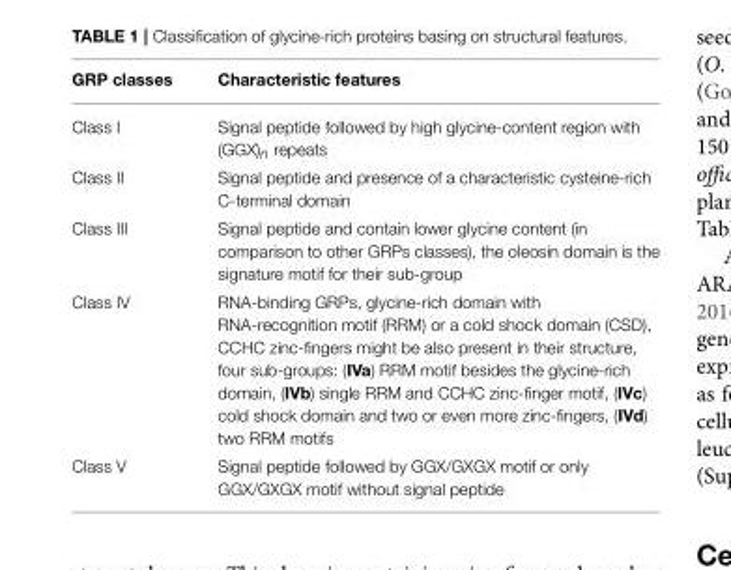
<table><thead><tr><td>GRP classes</td><td>Characteristic features</td></tr></thead><tbody><tr><td>Class I</td><td>Signal peptide followed by high glycine-content region with (GGX)n repeats</td></tr><tr><td>Class II</td><td>Signal peptide and presence of a characteristic cysteine-rich C-terminal domain</td></tr><tr><td>Class III</td><td>Signal peptide and contain lower glycine content (in comparison to other GRPs classes), the oleosin domain is the signature motif for their sub-group</td></tr><tr><td>Class IV</td><td>RNA-binding GRPs, glycine-rich domain with RNA-recognition motif (RRM) or a cold shock domain (CSD), CCHC zinc-fingers might be also present in their structure, four sub-groups: (IVa) RRM motif besides the glycine-rich domain, (IVb) single RRM and CCHC zinc-finger motif, (IVc) cold shock domain and two or even more zinc-fingers, (IVd) two RRM motifs</td></tr><tr><td>Class V</td><td>Signal peptide followed by GGX/GXGX motif or only GGX/GXGX motif without signal peptide</td></tr></tbody></table>